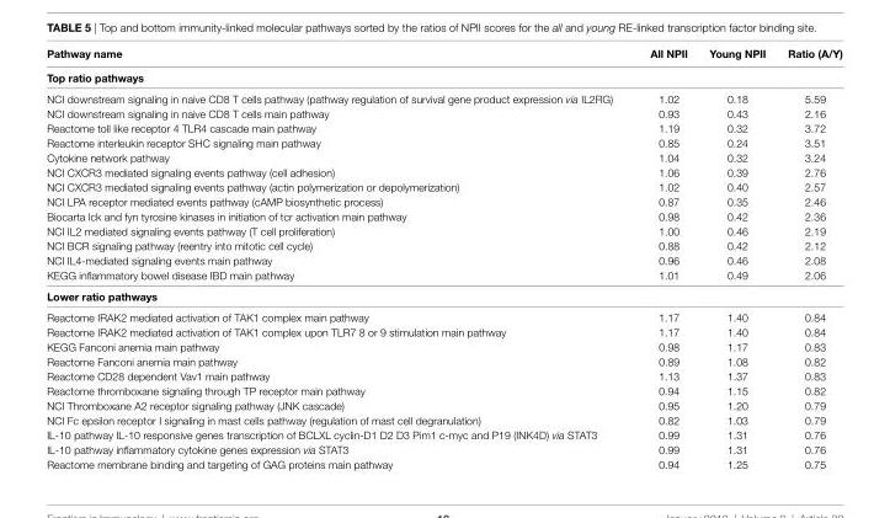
<table><thead><tr><td>Pathway name</td><td>all nPii</td><td>Young nPii</td><td>ratio (a/Y)</td></tr></thead><tbody><tr><td colspan="4">Top ratio pathways</td></tr><tr><td>NCI downstream signaling in naive CD8 T cells pathway (pathway regulation of survival gene product expression via IL2RG)</td><td>1.02</td><td>0.18</td><td>5.59</td></tr><tr><td>NCI downstream signaling in naive CD8 T cells main pathway</td><td>0.93</td><td>0.43</td><td>2.16</td></tr><tr><td>Reactome toll like receptor 4 TLR4 cascade main pathway</td><td>1.19</td><td>0.32</td><td>3.72</td></tr><tr><td>Reactome interleukin receptor SHC signaling main pathway</td><td>0.85</td><td>0.24</td><td>3.51</td></tr><tr><td>Cytokine network pathway</td><td>1.04</td><td>0.32</td><td>3.24</td></tr><tr><td>NCI CXCR3 mediated signaling events pathway (cell adhesion)</td><td>1.06</td><td>0.39</td><td>2.76</td></tr><tr><td>NCI CXCR3 mediated signaling events pathway (actin polymerization or depolymerization)</td><td>1.02</td><td>0.40</td><td>2.57</td></tr><tr><td>NCI LPA receptor mediated events pathway (cAMP biosynthetic process)</td><td>0.87</td><td>0.35</td><td>2.46</td></tr><tr><td>Biocarta lck and fyn tyrosine kinases in initiation of tcr activation main pathway</td><td>0.98</td><td>0.42</td><td>2.36</td></tr><tr><td>NCI IL2 mediated signaling events pathway (T cell proliferation)</td><td>1.00</td><td>0.46</td><td>2.19</td></tr><tr><td>NCI BCR signaling pathway (reentry into mitotic cell cycle)</td><td>0.88</td><td>0.42</td><td>2.12</td></tr><tr><td>NCI IL4-mediated signaling events main pathway</td><td>0.96</td><td>0.46</td><td>2.08</td></tr><tr><td>KEGG inflammatory bowel disease IBD main pathway</td><td>1.01</td><td>0.49</td><td>2.06</td></tr><tr><td colspan="4">lower ratio pathways</td></tr><tr><td>Reactome IRAK2 mediated activation of TAK1 complex main pathway</td><td>1.17</td><td>1.40</td><td>0.84</td></tr><tr><td>Reactome IRAK2 mediated activation of TAK1 complex upon TLR7 8 or 9 stimulation main pathway</td><td>1.17</td><td>1.40</td><td>0.84</td></tr><tr><td>KEGG Fanconi anemia main pathway</td><td>0.98</td><td>1.17</td><td>0.83</td></tr><tr><td>Reactome Fanconi anemia main pathway</td><td>0.89</td><td>1.08</td><td>0.82</td></tr><tr><td>Reactome CD28 dependent Vav1 main pathway</td><td>1.13</td><td>1.37</td><td>0.83</td></tr><tr><td>Reactome thromboxane signaling through TP receptor main pathway</td><td>0.94</td><td>1.15</td><td>0.82</td></tr><tr><td>NCI Thromboxane A2 receptor signaling pathway (JNK cascade)</td><td>0.95</td><td>1.20</td><td>0.79</td></tr><tr><td>NCI Fc epsilon receptor I signaling in mast cells pathway (regulation of mast cell degranulation)</td><td>0.82</td><td>1.03</td><td>0.79</td></tr><tr><td>IL-10 pathway IL-10 responsive genes transcription of BCLXL cyclin-D1 D2 D3 Pim1 c-myc and P19 (INK4D) via STAT3</td><td>0.99</td><td>1.31</td><td>0.76</td></tr><tr><td>IL-10 pathway inflammatory cytokine genes expression via STAT3</td><td>0.99</td><td>1.31</td><td>0.76</td></tr><tr><td>Reactome membrane binding and targeting of GAG proteins main pathway</td><td>0.94</td><td>1.25</td><td>0.75</td></tr></tbody></table>